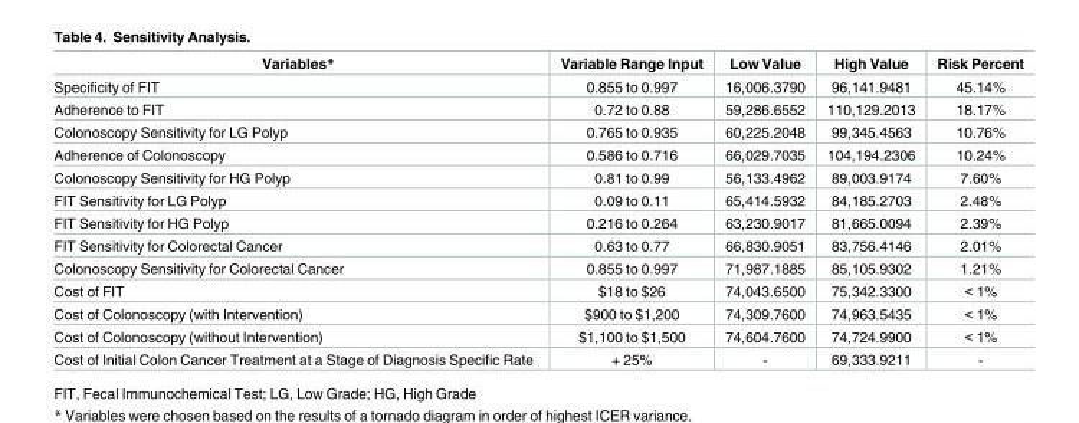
<table><thead><tr><td>Variables*</td><td>Variable Range Input</td><td>Low Value</td><td>High Value</td><td>Risk Percent</td></tr></thead><tbody><tr><td>Specificity of FIT</td><td>0.855 to 0.997</td><td>16,006.3790</td><td>96,141.9481</td><td>45.14%</td></tr><tr><td>Adherence to FIT</td><td>0.72 to 0.88</td><td>59,286.6552</td><td>110,129.2013</td><td>18.17%</td></tr><tr><td>Colonoscopy Sensitivity for LG Polyp</td><td>0.765 to 0.935</td><td>60,225.2048</td><td>99,345.4563</td><td>10.76%</td></tr><tr><td>Adherence of Colonoscopy</td><td>0.586 to 0.716</td><td>66,029.7035</td><td>104,194.2306</td><td>10.24%</td></tr><tr><td>Colonoscopy Sensitivity for HG Polyp</td><td>0.81 to 0.99</td><td>56,133.4962</td><td>89,003.9174</td><td>7.60%</td></tr><tr><td>FIT Sensitivity for LG Polyp</td><td>0.09 to 0.11</td><td>65,414.5932</td><td>84,185.2703</td><td>2.48%</td></tr><tr><td>FIT Sensitivity for HG Polyp</td><td>0.216 to 0.264</td><td>63,230.9017</td><td>81,665.0094</td><td>2.39%</td></tr><tr><td>FIT Sensitivity for Colorectal Cancer</td><td>0.63 to 0.77</td><td>66,830.9051</td><td>83,756.4146</td><td>2.01%</td></tr><tr><td>Colonoscopy Sensitivity for Colorectal Cancer</td><td>0.855 to 0.997</td><td>71,987.1885</td><td>85,105.9302</td><td>1.21%</td></tr><tr><td>Cost of FIT</td><td>$18 to $26</td><td>74,043.6500</td><td>75,342.3300</td><td>&lt; 1%</td></tr><tr><td>Cost of Colonoscopy (with Intervention)</td><td>$900 to $1,200</td><td>74,309.7600</td><td>74,963.5435</td><td>&lt; 1%</td></tr><tr><td>Cost of Colonoscopy (without Intervention)</td><td>$1,100 to $1,500</td><td>74,604.7600</td><td>74,724.9900</td><td>&lt; 1%</td></tr><tr><td>Cost of Initial Colon Cancer Treatment at a Stage of Diagnosis Specific Rate</td><td>+ 25%</td><td>-</td><td>69,333.9211</td><td>-</td></tr></tbody></table>